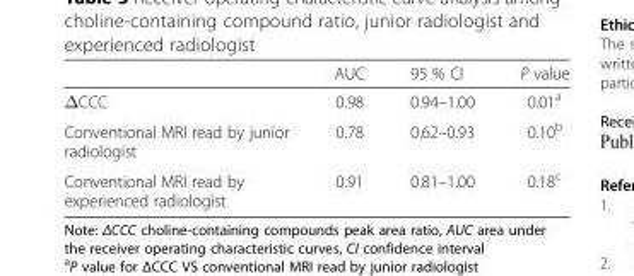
<table><thead><tr><td></td><td>AUC</td><td>95 % CI</td><td>P value</td></tr></thead><tbody><tr><td>ΔCCC</td><td>0.98</td><td>0.94–1.00</td><td>0.01<sup>a</sup></td></tr><tr><td>Conventional MRI read by junior radiologist</td><td>0.78</td><td>0.62–0.93</td><td>0.10<sup>b</sup></td></tr><tr><td>Conventional MRI read by experienced radiologist</td><td>0.91</td><td>0.81–1.00</td><td>0.18<sup>c</sup></td></tr></tbody></table>